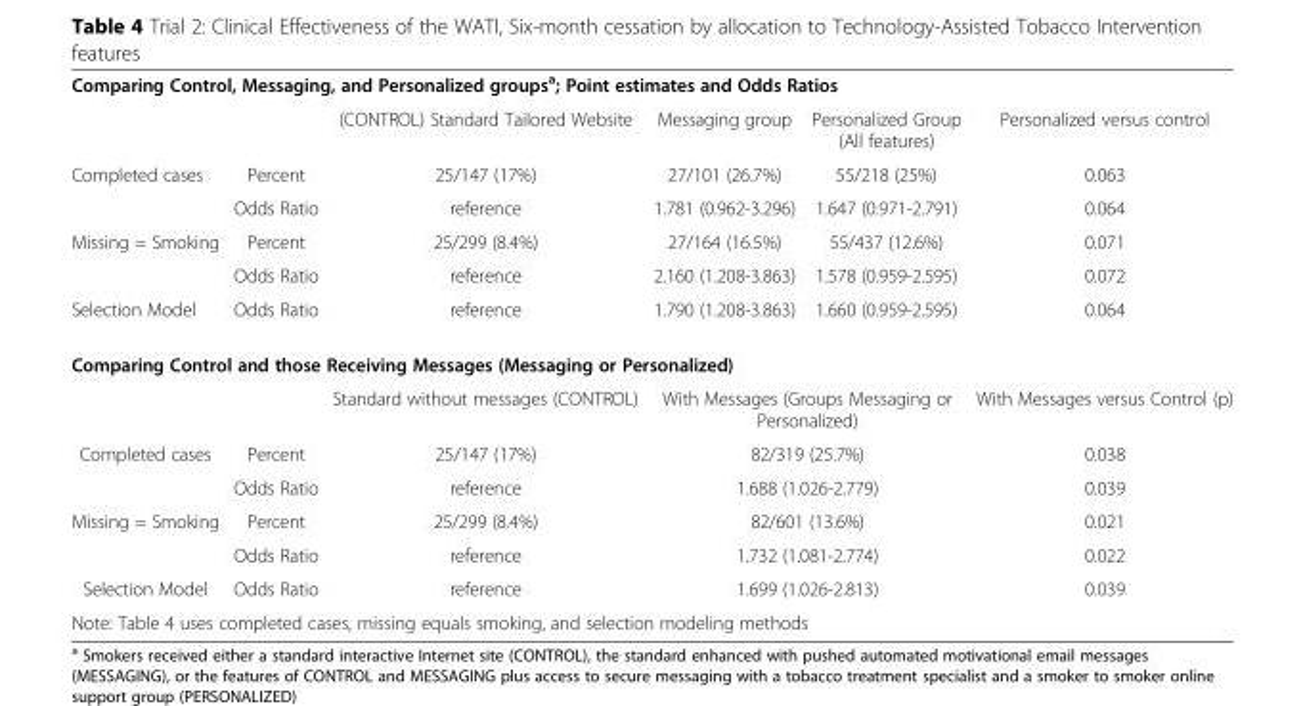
<table><tbody><tr><td colspan="6">Comparing Control, Messaging, and Personalized groups<sup>a</sup>; Point estimates and Odds Ratios</td></tr><tr><td></td><td></td><td>(CONTROL) Standard Tailored Website</td><td>Messaging group</td><td>Personalized Group (All features)</td><td>Personalized versus control</td></tr><tr><td rowspan="2">Completed cases</td><td>Percent</td><td>25/147 (17%)</td><td>27/101 (26.7%)</td><td>55/218 (25%)</td><td>0.063</td></tr><tr><td>Odds Ratio</td><td>reference</td><td>1.781 (0.962-3.296)</td><td>1.647 (0.971-2.791)</td><td>0.064</td></tr><tr><td rowspan="2">Missing = Smoking</td><td>Percent</td><td>25/299 (8.4%)</td><td>27/164 (16.5%)</td><td>55/437 (12.6%)</td><td>0.071</td></tr><tr><td>Odds Ratio</td><td>reference</td><td>2.160 (1.208-3.863)</td><td>1.578 (0.959-2.595)</td><td>0.072</td></tr><tr><td>Selection Model</td><td>Odds Ratio</td><td>reference</td><td>1.790 (1.208-3.863)</td><td>1.660 (0.959-2.595)</td><td>0.064</td></tr><tr><td colspan="6">Comparing Control and those Receiving Messages (Messaging or Personalized)</td></tr><tr><td></td><td></td><td>Standard without messages (CONTROL)</td><td colspan="2">With Messages (Groups Messaging or Personalized)</td><td>With Messages versus Control (p)</td></tr><tr><td rowspan="2">Completed cases</td><td>Percent</td><td>25/147 (17%)</td><td colspan="2">82/319 (25.7%)</td><td>0.038</td></tr><tr><td>Odds Ratio</td><td>reference</td><td colspan="2">1.688 (1.026-2.779)</td><td>0.039</td></tr><tr><td rowspan="2">Missing = Smoking</td><td>Percent</td><td>25/299 (8.4%)</td><td colspan="2">82/601 (13.6%)</td><td>0.021</td></tr><tr><td>Odds Ratio</td><td>reference</td><td colspan="2">1.732 (1.081-2.774)</td><td>0.022</td></tr><tr><td>Selection Model</td><td>Odds Ratio</td><td>reference</td><td colspan="2">1.699 (1.026-2.813)</td><td>0.039</td></tr><tr><td colspan="6">Note: Table 4 uses completed cases, missing equals smoking, and selection modeling methods</td></tr></tbody></table>